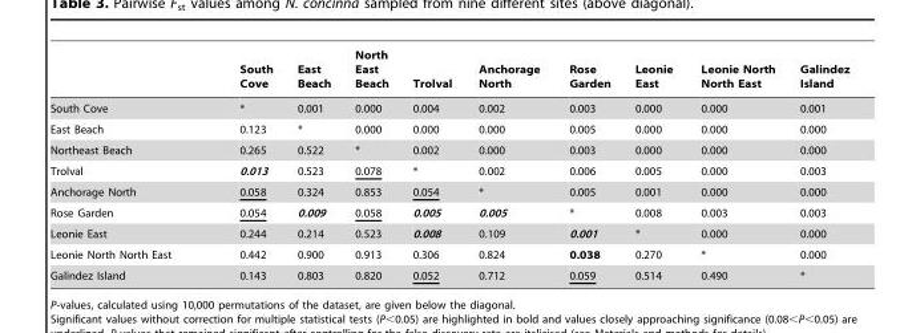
<table><thead><tr><td></td><td>South Cove</td><td>East Beach</td><td>North East Beach</td><td>Trolval</td><td>Anchorage North</td><td>Rose Garden</td><td>Leonie East</td><td>Leonie North North East</td><td>Galindez Island</td></tr></thead><tbody><tr><td>South Cove</td><td>*</td><td>0.001</td><td>0.000</td><td>0.004</td><td>0.002</td><td>0.003</td><td>0.000</td><td>0.000</td><td>0.001</td></tr><tr><td>East Beach</td><td>0.123</td><td>*</td><td>0.000</td><td>0.000</td><td>0.000</td><td>0.005</td><td>0.000</td><td>0.000</td><td>0.000</td></tr><tr><td>Northeast Beach</td><td>0.265</td><td>0.522</td><td>*</td><td>0.002</td><td>0.000</td><td>0.003</td><td>0.000</td><td>0.000</td><td>0.000</td></tr><tr><td>Trolval</td><td>0.013</td><td>0.523</td><td>0.078</td><td>*</td><td>0.002</td><td>0.006</td><td>0.005</td><td>0.000</td><td>0.003</td></tr><tr><td>Anchorage North</td><td>0.058</td><td>0.324</td><td>0.853</td><td>0.054</td><td>*</td><td>0.005</td><td>0.001</td><td>0.000</td><td>0.000</td></tr><tr><td>Rose Garden</td><td>0.054</td><td>0.009</td><td>0.058</td><td>0.005</td><td>0.005</td><td>*</td><td>0.008</td><td>0.003</td><td>0.003</td></tr><tr><td>Leonie East</td><td>0.244</td><td>0.214</td><td>0.523</td><td>0.008</td><td>0.109</td><td>0.001</td><td>*</td><td>0.000</td><td>0.000</td></tr><tr><td>Leonie North North East</td><td>0.442</td><td>0.900</td><td>0.913</td><td>0.306</td><td>0.824</td><td>0.038</td><td>0.270</td><td>*</td><td>0.000</td></tr><tr><td>Galindez Island</td><td>0.143</td><td>0.803</td><td>0.820</td><td>0.052</td><td>0.712</td><td>0.059</td><td>0.514</td><td>0.490</td><td>*</td></tr></tbody></table>